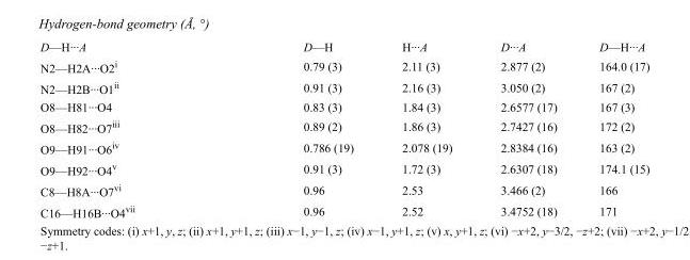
<table><tbody><tr><td>D—H···A</td><td>D—H</td><td>H···A</td><td>D···A</td><td>D—H···A</td></tr><tr><td>N2—H2A···O2<sup>i</sup></td><td>0.79 (3)</td><td>2.11 (3)</td><td>2.877 (2)</td><td>164.0 (17)</td></tr><tr><td>N2—H2B···O1<sup>ii</sup></td><td>0.91 (3)</td><td>2.16 (3)</td><td>3.050 (2)</td><td>167 (2)</td></tr><tr><td>O8—H81···O4</td><td>0.83 (3)</td><td>1.84 (3)</td><td>2.6577 (17)</td><td>167 (3)</td></tr><tr><td>O8—H82···O7<sup>iii</sup></td><td>0.89 (2)</td><td>1.86 (3)</td><td>2.7427 (16)</td><td>172 (2)</td></tr><tr><td>O9—H91···O6<sup>iv</sup></td><td>0.786 (19)</td><td>2.078 (19)</td><td>2.8384 (16)</td><td>163 (2)</td></tr><tr><td>O9—H92···O4<sup>v</sup></td><td>0.91 (3)</td><td>1.72 (3)</td><td>2.6307 (18)</td><td>174.1 (15)</td></tr><tr><td>C8—H8A···O7<sup>vi</sup></td><td>0.96</td><td>2.53</td><td>3.466 (2)</td><td>166</td></tr><tr><td>C16—H16B···O4<sup>vii</sup></td><td>0.96</td><td>2.52</td><td>3.4752 (18)</td><td>171</td></tr></tbody></table>